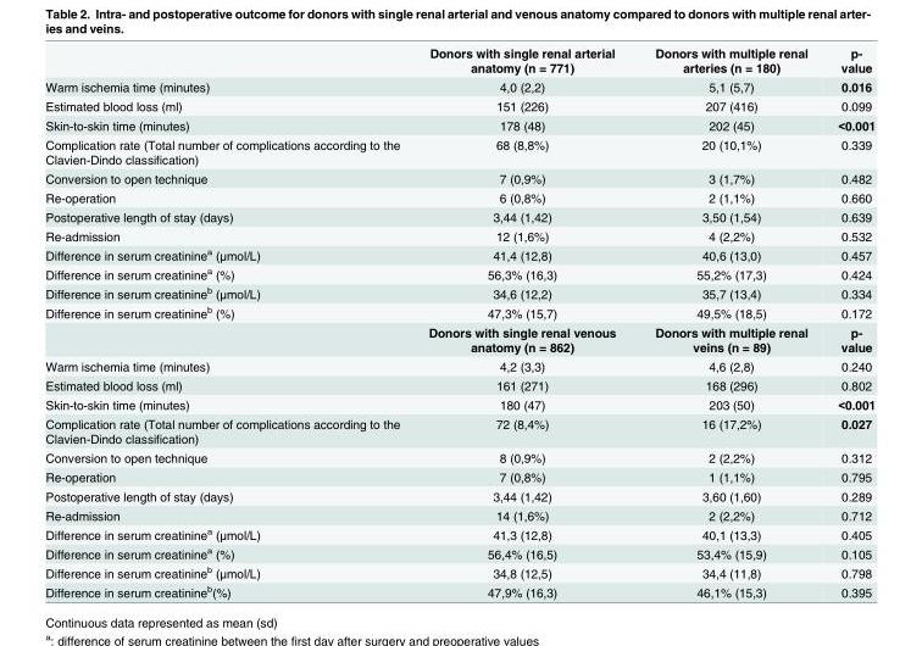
<table><thead><tr><td></td><td>Donors with single renal arterial anatomy (n = 771)</td><td>Donors with multiple renal arteries (n = 180)</td><td>p- value</td></tr></thead><tbody><tr><td>Warm ischemia time (minutes)</td><td>4,0 (2,2)</td><td>5,1 (5,7)</td><td>0.016</td></tr><tr><td>Estimated blood loss (ml)</td><td>151 (226)</td><td>207 (416)</td><td>0.099</td></tr><tr><td>Skin-to-skin time (minutes)</td><td>178 (48)</td><td>202 (45)</td><td>&lt;0.001</td></tr><tr><td>Complication rate (Total number of complications according to the Clavien-Dindo classification)</td><td>68 (8,8%)</td><td>20 (10,1%)</td><td>0.339</td></tr><tr><td>Conversion to open technique</td><td>7 (0,9%)</td><td>3 (1,7%)</td><td>0.482</td></tr><tr><td>Re-operation</td><td>6 (0,8%)</td><td>2 (1,1%)</td><td>0.660</td></tr><tr><td>Postoperative length of stay (days)</td><td>3,44 (1,42)</td><td>3,50 (1,54)</td><td>0.639</td></tr><tr><td>Re-admission</td><td>12 (1,6%)</td><td>4 (2,2%)</td><td>0.532</td></tr><tr><td>Difference in serum creatinine<sup>a</sup> (μmol/L)</td><td>41,4 (12,8)</td><td>40,6 (13,0)</td><td>0.457</td></tr><tr><td>Difference in serum creatinine<sup>a</sup> (%)</td><td>56,3% (16,3)</td><td>55,2% (17,3)</td><td>0.424</td></tr><tr><td>Difference in serum creatinine<sup>b</sup> (μmol/L)</td><td>34,6 (12,2)</td><td>35,7 (13,4)</td><td>0.334</td></tr><tr><td rowspan="2">Difference in serum creatinine<sup>b</sup> (%)</td><td>47,3% (15,7)</td><td>49,5% (18,5)</td><td>0.172</td></tr><tr><td>Donors with single renal venous anatomy (n = 862)</td><td>Donors with multiple renal veins (n = 89)</td><td>p- value</td></tr><tr><td>Warm ischemia time (minutes)</td><td>4,2 (3,3)</td><td>4,6 (2,8)</td><td>0.240</td></tr><tr><td>Estimated blood loss (ml)</td><td>161 (271)</td><td>168 (296)</td><td>0.802</td></tr><tr><td>Skin-to-skin time (minutes)</td><td>180 (47)</td><td>203 (50)</td><td>&lt;0.001</td></tr><tr><td>Complication rate (Total number of complications according to the Clavien-Dindo classification)</td><td>72 (8,4%)</td><td>16 (17,2%)</td><td>0.027</td></tr><tr><td>Conversion to open technique</td><td>8 (0,9%)</td><td>2 (2,2%)</td><td>0.312</td></tr><tr><td>Re-operation</td><td>7 (0,8%)</td><td>1 (1,1%)</td><td>0.795</td></tr><tr><td>Postoperative length of stay (days)</td><td>3,44 (1,42)</td><td>3,60 (1,60)</td><td>0.289</td></tr><tr><td>Re-admission</td><td>14 (1,6%)</td><td>2 (2,2%)</td><td>0.712</td></tr><tr><td>Difference in serum creatinine<sup>a</sup> (μmol/L)</td><td>41,3 (12,8)</td><td>40,1 (13,3)</td><td>0.405</td></tr><tr><td>Difference in serum creatinine<sup>a</sup> (%)</td><td>56,4% (16,5)</td><td>53,4% (15,9)</td><td>0.105</td></tr><tr><td>Difference in serum creatinine<sup>b</sup> (μmol/L)</td><td>34,8 (12,5)</td><td>34,4 (11,8)</td><td>0.798</td></tr><tr><td>Difference in serum creatinine<sup>b</sup>(%)</td><td>47,9% (16,3)</td><td>46,1% (15,3)</td><td>0.395</td></tr></tbody></table>